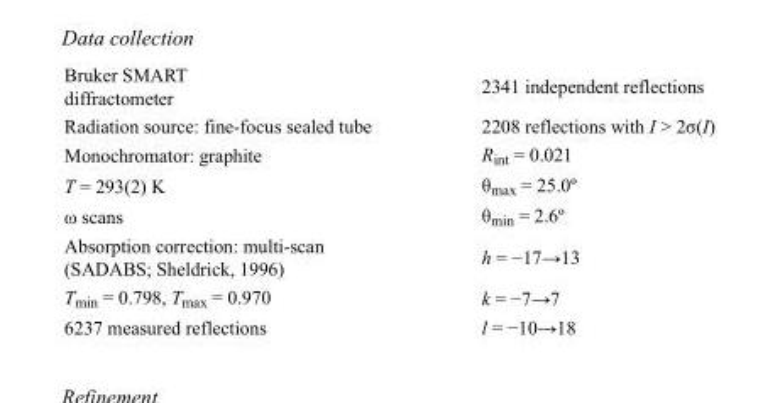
<table><tbody><tr><td>Bruker SMART diffractometer</td><td>2341 independent reflections</td></tr><tr><td>Radiation source: fine-focus sealed tube</td><td>2208 reflections with I &gt; 2σ(I)</td></tr><tr><td>Monochromator: graphite</td><td>R<sub>int</sub> = 0.021</td></tr><tr><td>T = 293(2) K</td><td>θ<sub>max</sub> = 25.0º</td></tr><tr><td>ω scans</td><td>θ<sub>min</sub> = 2.6º</td></tr><tr><td>Absorption correction: multi-scan (SADABS; Sheldrick, 1996)</td><td>h = −17→13</td></tr><tr><td>T<sub>min</sub> = 0.798, T<sub>max</sub> = 0.970</td><td>k = −7→7</td></tr><tr><td>6237 measured reflections</td><td>l = −10→18</td></tr></tbody></table>